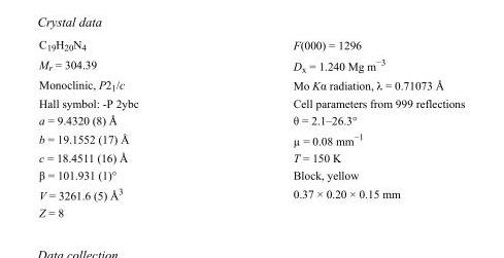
<table><tbody><tr><td>C<sub>19</sub>H<sub>20</sub>N<sub>4</sub></td><td>F(000) = 1296</td></tr><tr><td>M<sub>r</sub> = 304.39</td><td>D<sub>x</sub> = 1.240 Mg m<sup>−3</sup></td></tr><tr><td>Monoclinic, P2<sub>1</sub>/c</td><td>Mo Kα radiation, λ = 0.71073 Å</td></tr><tr><td>Hall symbol: -P 2ybc</td><td>Cell parameters from 999 reflections</td></tr><tr><td>a = 9.4320 (8) Å</td><td>θ = 2.1–26.3°</td></tr><tr><td>b = 19.1552 (17) Å</td><td>µ = 0.08 mm<sup>−1</sup></td></tr><tr><td>c = 18.4511 (16) Å</td><td>T = 150 K</td></tr><tr><td>β = 101.931 (1)°</td><td>Block, yellow</td></tr><tr><td>V = 3261.6 (5) Å<sup>3</sup></td><td>0.37 × 0.20 × 0.15 mm</td></tr><tr><td>Z = 8</td><td></td></tr></tbody></table>